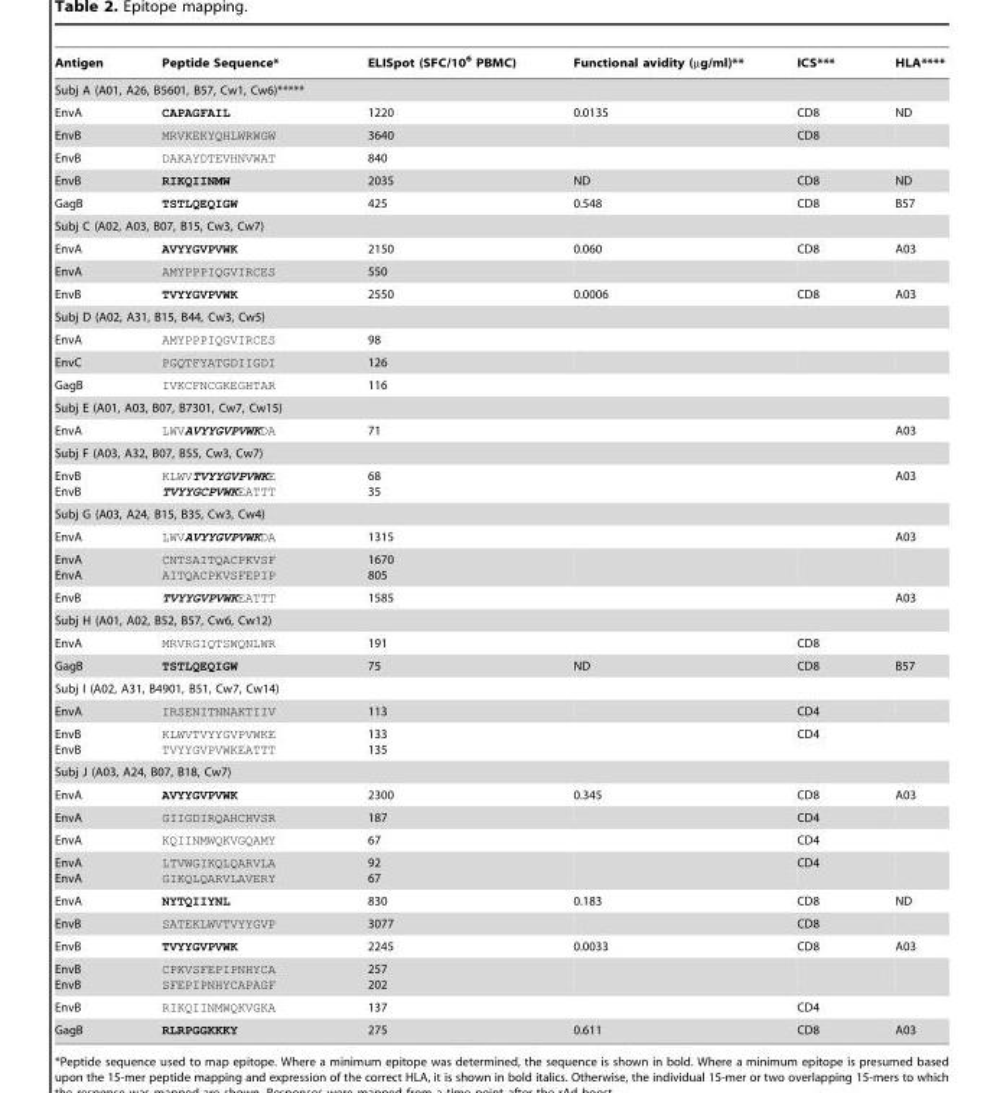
<table><thead><tr><td>Antigen</td><td>Peptide Sequence*</td><td>ELISpot (SFC/10<sup>6</sup> PBMC)</td><td>Functional avidity (µg/ml)**</td><td>ICS***</td><td>HLA****</td></tr></thead><tbody><tr><td colspan="6">Subj A (A01, A26, B5601, B57, Cw1, Cw6)*****</td></tr><tr><td>EnvA</td><td>CAPAGFAIL</td><td>1220</td><td>0.0135</td><td>CD8</td><td>ND</td></tr><tr><td>EnvB</td><td>MRVKEKYQHLWRWGW</td><td>3640</td><td></td><td>CD8</td><td></td></tr><tr><td>EnvB</td><td>DAKAYDTEVHNVWAT</td><td>840</td><td></td><td></td><td></td></tr><tr><td>EnvB</td><td>RIKQIINMW</td><td>2035</td><td>ND</td><td>CD8</td><td>ND</td></tr><tr><td>GagB</td><td>TSTLQEQIGW</td><td>425</td><td>0.548</td><td>CD8</td><td>B57</td></tr><tr><td colspan="6">Subj C (A02, A03, B07, B15, Cw3, Cw7)</td></tr><tr><td>EnvA</td><td>AVYYGVPVWK</td><td>2150</td><td>0.060</td><td>CD8</td><td>A03</td></tr><tr><td>EnvA</td><td>AMYPPPIQGVIRCES</td><td>550</td><td></td><td></td><td></td></tr><tr><td>EnvB</td><td>TVYYGVPVWK</td><td>2550</td><td>0.0006</td><td>CD8</td><td>A03</td></tr><tr><td colspan="6">Subj D (A02, A31, B15, B44, Cw3, Cw5)</td></tr><tr><td>EnvA</td><td>AMYPPPIQGVIRCES</td><td>98</td><td></td><td></td><td></td></tr><tr><td>EnvC</td><td>PGQTFYATGDIIGDI</td><td>126</td><td></td><td></td><td></td></tr><tr><td>GagB</td><td>IVKCFNCGKEGHTAR</td><td>116</td><td></td><td></td><td></td></tr><tr><td colspan="6">Subj E (A01, A03, B07, B7301, Cw7, Cw15)</td></tr><tr><td>EnvA</td><td>LWVAVYYGVPVWKDA</td><td>71</td><td></td><td></td><td>A03</td></tr><tr><td colspan="6">Subj F (A03, A32, B07, B55, Cw3, Cw7)</td></tr><tr><td>EnvB EnvB</td><td>KLWVTVYYGVPVWKE TVYYGCPVWKEATTT</td><td>68 35</td><td></td><td></td><td>A03</td></tr><tr><td colspan="6">Subj G (A03, A24, B15, B35, Cw3, Cw4)</td></tr><tr><td>EnvA</td><td>LWVAVYYGVPVWKDA</td><td>1315</td><td></td><td></td><td>A03</td></tr><tr><td>EnvA EnvA</td><td>CNTSAITQACPKVSF AITQACPKVSFEPIP</td><td>1670 805</td><td></td><td></td><td></td></tr><tr><td>EnvB</td><td>TVYYGVPVWKEATTT</td><td>1585</td><td></td><td></td><td>A03</td></tr><tr><td colspan="6">Subj H (A01, A02, B52, B57, Cw6, Cw12)</td></tr><tr><td>EnvA</td><td>MRVRGIQTSWQNLWR</td><td>191</td><td></td><td>CD8</td><td></td></tr><tr><td>GagB</td><td>TSTLQEQIGW</td><td>75</td><td>ND</td><td>CD8</td><td>B57</td></tr><tr><td colspan="6">Subj I (A02, A31, B4901, B51, Cw7, Cw14)</td></tr><tr><td>EnvA</td><td>IRSENITNNAKTIIV</td><td>113</td><td></td><td>CD4</td><td></td></tr><tr><td>EnvB EnvB</td><td>KLWVTVYYGVPVWKE TVYYGVPVWKEATTT</td><td>133 135</td><td></td><td>CD4</td><td></td></tr><tr><td colspan="6">Subj J (A03, A24, B07, B18, Cw7)</td></tr><tr><td>EnvA</td><td>AVYYGVPVWK</td><td>2300</td><td>0.345</td><td>CD8</td><td>A03</td></tr><tr><td>EnvA</td><td>GIIGDIRQAHCHVSR</td><td>187</td><td></td><td>CD4</td><td></td></tr><tr><td>EnvA</td><td>KQIINMWQKVGQAMY</td><td>67</td><td></td><td>CD4</td><td></td></tr><tr><td>EnvA EnvA</td><td>LTVWGIKQLQARVLA GIKQLQARVLAVERY</td><td>92 67</td><td></td><td>CD4</td><td></td></tr><tr><td>EnvA</td><td>NYTQIIYNL</td><td>830</td><td>0.183</td><td>CD8</td><td>ND</td></tr><tr><td>EnvB</td><td>SATEKLWVTVYYGVP</td><td>3077</td><td></td><td>CD8</td><td></td></tr><tr><td>EnvB</td><td>TVYYGVPVWK</td><td>2245</td><td>0.0033</td><td>CD8</td><td>A03</td></tr><tr><td>EnvB EnvB</td><td>CPKVSFEPIPNHYCA SFEPIPNHYCAPAGF</td><td>257 202</td><td></td><td></td><td></td></tr><tr><td>EnvB</td><td>RIKQIINMWQKVGKA</td><td>137</td><td></td><td>CD4</td><td></td></tr><tr><td>GagB</td><td>RLRPGGKKKY</td><td>275</td><td>0.611</td><td>CD8</td><td>A03</td></tr></tbody></table>